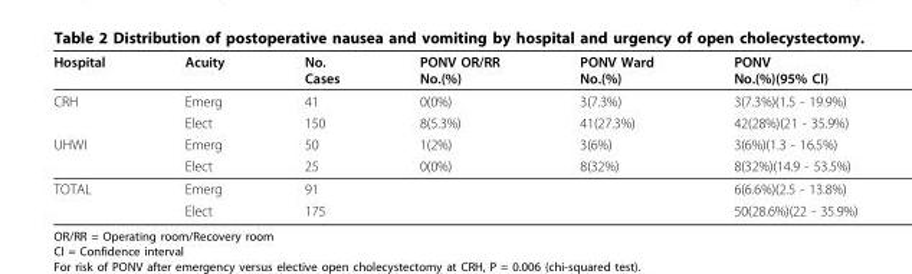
<table><thead><tr><td>Hospital</td><td>Acuity</td><td>No. Cases</td><td>PONV OR/RR No.(%)</td><td>PONV Ward No.(%)</td><td>PONV No.(%)(95% CI)</td></tr></thead><tbody><tr><td rowspan="2">CRH</td><td>Emerg</td><td>41</td><td>0(0%)</td><td>3(7.3%)</td><td>3(7.3%)(1.5 - 19.9%)</td></tr><tr><td>Elect</td><td>150</td><td>8(5.3%)</td><td>41(27.3%)</td><td>42(28%)(21 - 35.9%)</td></tr><tr><td rowspan="2">UHWI</td><td>Emerg</td><td>50</td><td>1(2%)</td><td>3(6%)</td><td>3(6%)(1.3 - 16.5%)</td></tr><tr><td>Elect</td><td>25</td><td>0(0%)</td><td>8(32%)</td><td>8(32%)(14.9 - 53.5%)</td></tr><tr><td rowspan="2">TOTAL</td><td>Emerg</td><td>91</td><td></td><td></td><td>6(6.6%)(2.5 - 13.8%)</td></tr><tr><td>Elect</td><td>175</td><td></td><td></td><td>50(28.6%)(22 - 35.9%)</td></tr></tbody></table>